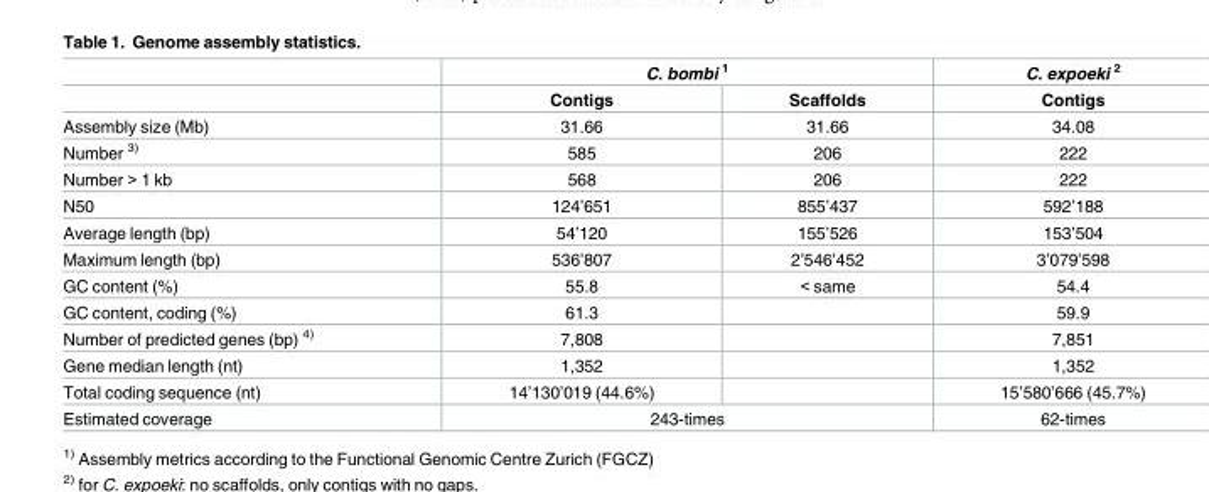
<table><thead><tr><td rowspan="2"></td><td colspan="2">C. bombi <sup>1</sup></td><td rowspan="2">C. expoeki <sup>2</sup> Contigs</td></tr><tr><td>Contigs</td><td>Scaffolds</td></tr></thead><tbody><tr><td>Assembly size (Mb)</td><td>31.66</td><td>31.66</td><td>34.08</td></tr><tr><td>Number <sup>3)</sup></td><td>585</td><td>206</td><td>222</td></tr><tr><td>Number &gt; 1 kb</td><td>568</td><td>206</td><td>222</td></tr><tr><td>N50</td><td>124’651</td><td>855’437</td><td>592’188</td></tr><tr><td>Average length (bp)</td><td>54’120</td><td>155’526</td><td>153’504</td></tr><tr><td>Maximum length (bp)</td><td>536’807</td><td>2’546’452</td><td>3’079’598</td></tr><tr><td>GC content (%)</td><td>55.8</td><td>&lt; same</td><td>54.4</td></tr><tr><td>GC content, coding (%)</td><td>61.3</td><td></td><td>59.9</td></tr><tr><td>Number of predicted genes (bp) <sup>4)</sup></td><td>7,808</td><td></td><td>7,851</td></tr><tr><td>Gene median length (nt)</td><td>1,352</td><td></td><td>1,352</td></tr><tr><td>Total coding sequence (nt)</td><td>14’130’019 (44.6%)</td><td></td><td>15’580’666 (45.7%)</td></tr><tr><td>Estimated coverage</td><td colspan="2">243-times</td><td>62-times</td></tr></tbody></table>